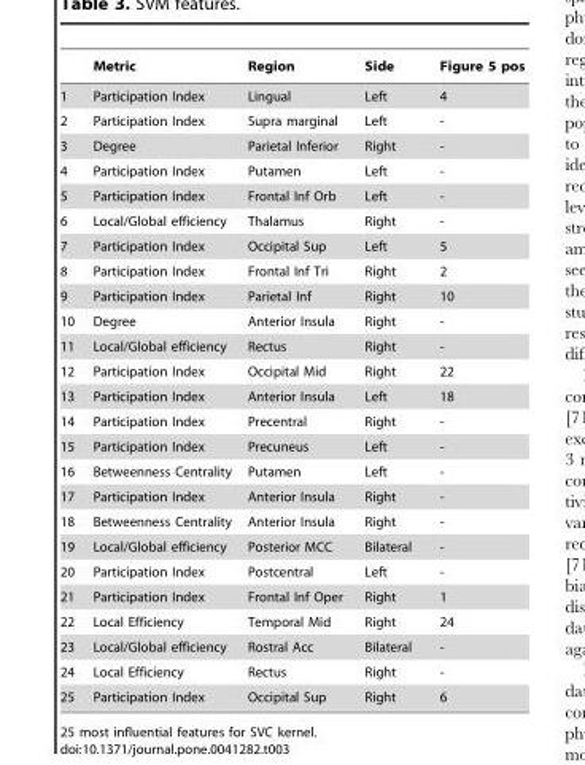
<table><thead><tr><td></td><td>Metric</td><td>Region</td><td>Side</td><td>Figure 5 pos</td></tr></thead><tbody><tr><td>1</td><td>Participation Index</td><td>Lingual</td><td>Left</td><td>4</td></tr><tr><td>2</td><td>Participation Index</td><td>Supra marginal</td><td>Left</td><td>-</td></tr><tr><td>3</td><td>Degree</td><td>Parietal Inferior</td><td>Right</td><td>-</td></tr><tr><td>4</td><td>Participation Index</td><td>Putamen</td><td>Left</td><td>-</td></tr><tr><td>5</td><td>Participation Index</td><td>Frontal Inf Orb</td><td>Left</td><td>-</td></tr><tr><td>6</td><td>Local/Global efficiency</td><td>Thalamus</td><td>Right</td><td>-</td></tr><tr><td>7</td><td>Participation Index</td><td>Occipital Sup</td><td>Left</td><td>5</td></tr><tr><td>8</td><td>Participation Index</td><td>Frontal Inf Tri</td><td>Right</td><td>2</td></tr><tr><td>9</td><td>Participation Index</td><td>Parietal Inf</td><td>Right</td><td>10</td></tr><tr><td>10</td><td>Degree</td><td>Anterior Insula</td><td>Right</td><td>-</td></tr><tr><td>11</td><td>Local/Global efficiency</td><td>Rectus</td><td>Right</td><td>-</td></tr><tr><td>12</td><td>Participation Index</td><td>Occipital Mid</td><td>Right</td><td>22</td></tr><tr><td>13</td><td>Participation Index</td><td>Anterior Insula</td><td>Left</td><td>18</td></tr><tr><td>14</td><td>Participation Index</td><td>Precentral</td><td>Right</td><td>-</td></tr><tr><td>15</td><td>Participation Index</td><td>Precuneus</td><td>Left</td><td>-</td></tr><tr><td>16</td><td>Betweenness Centrality</td><td>Putamen</td><td>Left</td><td>-</td></tr><tr><td>17</td><td>Participation Index</td><td>Anterior Insula</td><td>Right</td><td>-</td></tr><tr><td>18</td><td>Betweenness Centrality</td><td>Anterior Insula</td><td>Right</td><td>-</td></tr><tr><td>19</td><td>Local/Global efficiency</td><td>Posterior MCC</td><td>Bilateral</td><td>-</td></tr><tr><td>20</td><td>Participation Index</td><td>Postcentral</td><td>Left</td><td>-</td></tr><tr><td>21</td><td>Participation Index</td><td>Frontal Inf Oper</td><td>Right</td><td>1</td></tr><tr><td>22</td><td>Local Efficiency</td><td>Temporal Mid</td><td>Right</td><td>24</td></tr><tr><td>23</td><td>Local/Global efficiency</td><td>Rostral Acc</td><td>Bilateral</td><td>-</td></tr><tr><td>24</td><td>Local Efficiency</td><td>Rectus</td><td>Right</td><td>-</td></tr><tr><td>25</td><td>Participation Index</td><td>Occipital Sup</td><td>Right</td><td>6</td></tr></tbody></table>